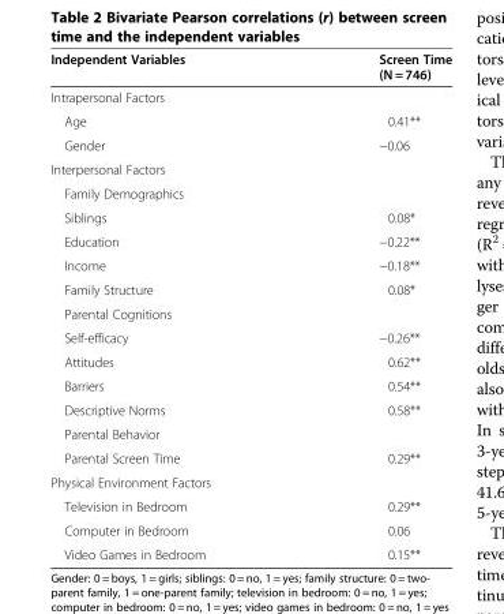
<table><thead><tr><td>Independent Variables</td><td>Screen Time (N = 746)</td></tr></thead><tbody><tr><td colspan="2">Intrapersonal Factors</td></tr><tr><td>Age</td><td>0.41**</td></tr><tr><td>Gender</td><td>−0.06</td></tr><tr><td colspan="2">Interpersonal Factors</td></tr><tr><td colspan="2">Family Demographics</td></tr><tr><td>Siblings</td><td>0.08*</td></tr><tr><td>Education</td><td>−0.22**</td></tr><tr><td>Income</td><td>−0.18**</td></tr><tr><td>Family Structure</td><td>0.08*</td></tr><tr><td colspan="2">Parental Cognitions</td></tr><tr><td>Self-efficacy</td><td>−0.26**</td></tr><tr><td>Attitudes</td><td>0.62**</td></tr><tr><td>Barriers</td><td>0.54**</td></tr><tr><td>Descriptive Norms</td><td>0.58**</td></tr><tr><td colspan="2">Parental Behavior</td></tr><tr><td>Parental Screen Time</td><td>0.29**</td></tr><tr><td colspan="2">Physical Environment Factors</td></tr><tr><td>Television in Bedroom</td><td>0.29**</td></tr><tr><td>Computer in Bedroom</td><td>0.06</td></tr><tr><td>Video Games in Bedroom</td><td>0.15**</td></tr></tbody></table>